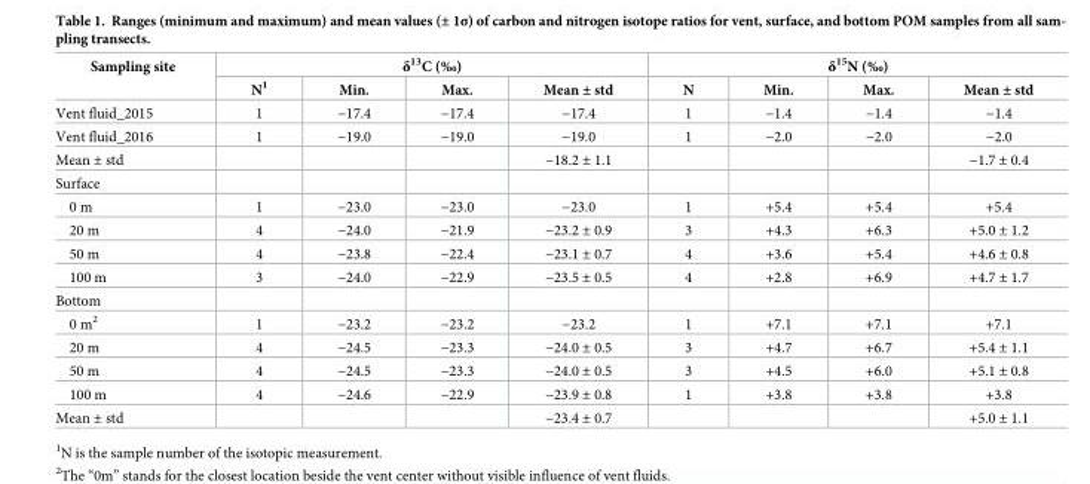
<table><thead><tr><td rowspan="2">Sampling site</td><td colspan="4">δ<sup>13</sup>C (‰)</td><td colspan="4">δ<sup>15</sup>N (‰)</td></tr><tr><td>N<sup>1</sup></td><td>Min.</td><td>Max.</td><td>Mean ± std</td><td>N</td><td>Min.</td><td>Max.</td><td>Mean ± std</td></tr></thead><tbody><tr><td>Vent fluid_2015</td><td>1</td><td>−17.4</td><td>−17.4</td><td>−17.4</td><td>1</td><td>−1.4</td><td>−1.4</td><td>−1.4</td></tr><tr><td>Vent fluid_2016</td><td>1</td><td>−19.0</td><td>−19.0</td><td>−19.0</td><td>1</td><td>−2.0</td><td>−2.0</td><td>−2.0</td></tr><tr><td>Mean ± std</td><td></td><td></td><td></td><td>−18.2 ± 1.1</td><td></td><td></td><td></td><td>−1.7 ± 0.4</td></tr><tr><td colspan="9">Surface</td></tr><tr><td>0 m</td><td>1</td><td>−23.0</td><td>−23.0</td><td>−23.0</td><td>1</td><td>+5.4</td><td>+5.4</td><td>+5.4</td></tr><tr><td>20 m</td><td>4</td><td>−24.0</td><td>−21.9</td><td>−23.2 ± 0.9</td><td>3</td><td>+4.3</td><td>+6.3</td><td>+5.0 ± 1.2</td></tr><tr><td>50 m</td><td>4</td><td>−23.8</td><td>−22.4</td><td>−23.1 ± 0.7</td><td>4</td><td>+3.6</td><td>+5.4</td><td>+4.6 ± 0.8</td></tr><tr><td>100 m</td><td>3</td><td>−24.0</td><td>−22.9</td><td>−23.5 ± 0.5</td><td>4</td><td>+2.8</td><td>+6.9</td><td>+4.7 ± 1.7</td></tr><tr><td colspan="9">Bottom</td></tr><tr><td>0 m<sup>2</sup></td><td>1</td><td>−23.2</td><td>−23.2</td><td>−23.2</td><td>1</td><td>+7.1</td><td>+7.1</td><td>+7.1</td></tr><tr><td>20 m</td><td>4</td><td>−24.5</td><td>−23.3</td><td>−24.0 ± 0.5</td><td>3</td><td>+4.7</td><td>+6.7</td><td>+5.4 ± 1.1</td></tr><tr><td>50 m</td><td>4</td><td>−24.5</td><td>−23.3</td><td>−24.0 ± 0.5</td><td>3</td><td>+4.5</td><td>+6.0</td><td>+5.1 ± 0.8</td></tr><tr><td>100 m</td><td>4</td><td>−24.6</td><td>−22.9</td><td>−23.9 ± 0.8</td><td>1</td><td>+3.8</td><td>+3.8</td><td>+3.8</td></tr><tr><td>Mean ± std</td><td></td><td></td><td></td><td>−23.4 ± 0.7</td><td></td><td></td><td></td><td>+5.0 ± 1.1</td></tr></tbody></table>